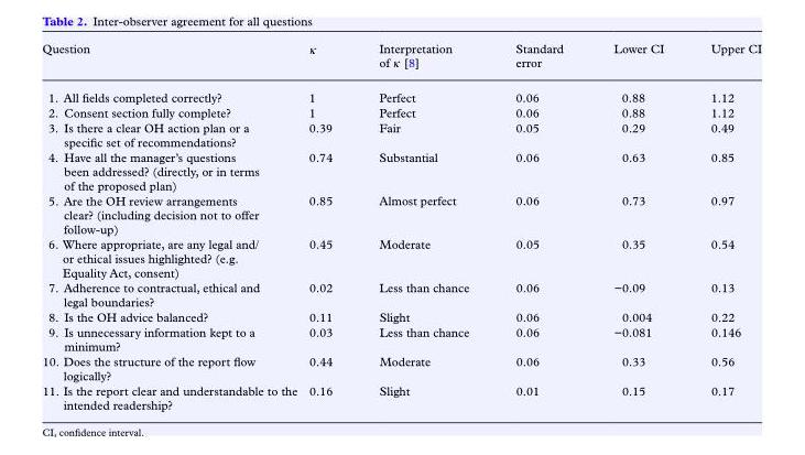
<table><thead><tr><td>Question</td><td>κ</td><td>Interpretation of κ [8]</td><td>Standard error</td><td>Lower CI</td><td>Upper CI</td></tr></thead><tbody><tr><td>1. All fields completed correctly?</td><td>1</td><td>Perfect</td><td>0.06</td><td>0.88</td><td>1.12</td></tr><tr><td>2. Consent section fully complete?</td><td>1</td><td>Perfect</td><td>0.06</td><td>0.88</td><td>1.12</td></tr><tr><td>3. Is there a clear OH action plan or a specific set of recommendations?</td><td>0.39</td><td>Fair</td><td>0.05</td><td>0.29</td><td>0.49</td></tr><tr><td>4. Have all the manager’s questions been addressed? (directly, or in terms of the proposed plan)</td><td>0.74</td><td>Substantial</td><td>0.06</td><td>0.63</td><td>0.85</td></tr><tr><td>5. Are the OH review arrangements clear? (including decision not to offer follow-up)</td><td>0.85</td><td>Almost perfect</td><td>0.06</td><td>0.73</td><td>0.97</td></tr><tr><td>6. Where appropriate, are any legal and/ or ethical issues highlighted? (e.g. Equality Act, consent)</td><td>0.45</td><td>Moderate</td><td>0.05</td><td>0.35</td><td>0.54</td></tr><tr><td>7. Adherence to contractual, ethical and legal boundaries?</td><td>0.02</td><td>Less than chance</td><td>0.06</td><td>−0.09</td><td>0.13</td></tr><tr><td>8. Is the OH advice balanced?</td><td>0.11</td><td>Slight</td><td>0.06</td><td>0.004</td><td>0.22</td></tr><tr><td>9. Is unnecessary information kept to a minimum?</td><td>0.03</td><td>Less than chance</td><td>0.06</td><td>−0.081</td><td>0.146</td></tr><tr><td>10. Does the structure of the report flow logically?</td><td>0.44</td><td>Moderate</td><td>0.06</td><td>0.33</td><td>0.56</td></tr><tr><td>11. Is the report clear and understandable to the intended readership?</td><td>0.16</td><td>Slight</td><td>0.01</td><td>0.15</td><td>0.17</td></tr></tbody></table>